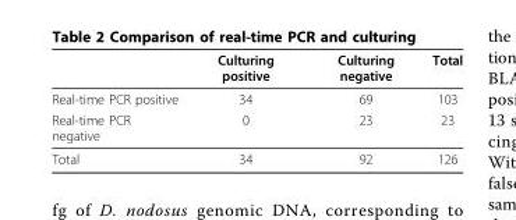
<table><thead><tr><td></td><td>Culturing positive</td><td>Culturing negative</td><td>Total</td></tr></thead><tbody><tr><td>Real-time PCR positive</td><td>34</td><td>69</td><td>103</td></tr><tr><td>Real-time PCR negative</td><td>0</td><td>23</td><td>23</td></tr><tr><td>Total</td><td>34</td><td>92</td><td>126</td></tr></tbody></table>